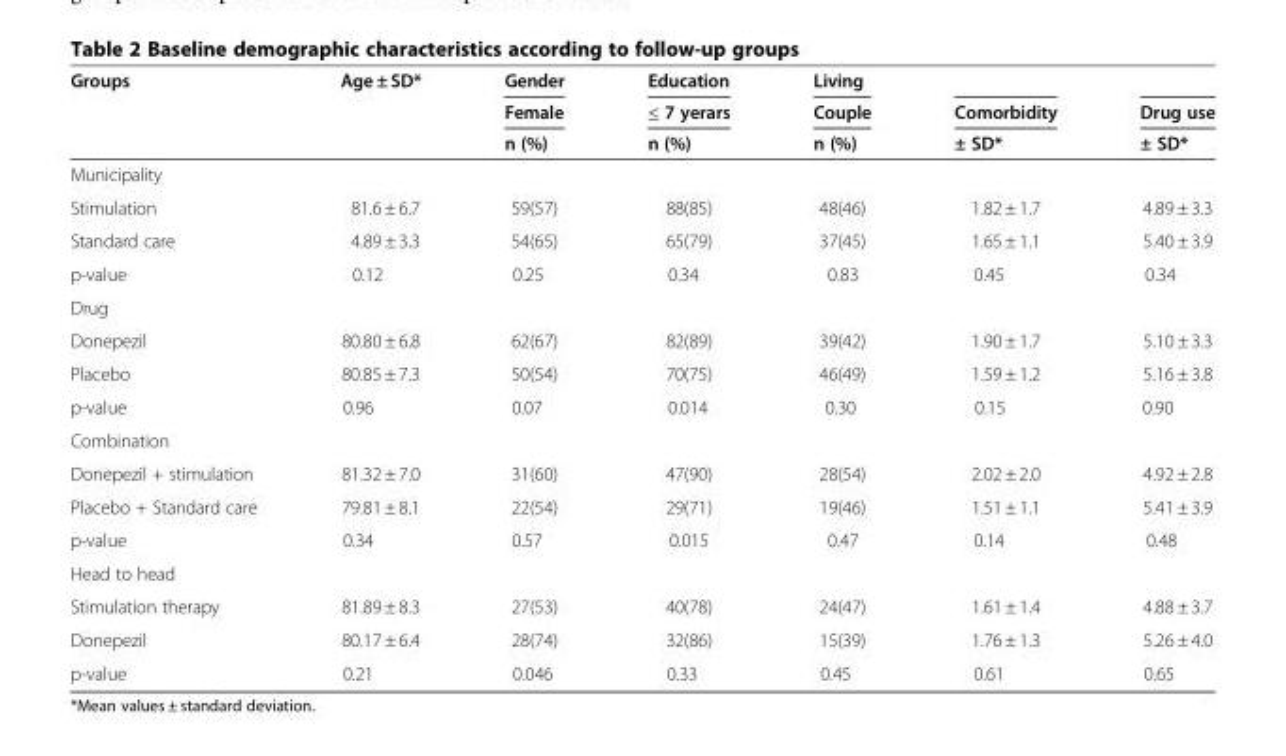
<table><thead><tr><td rowspan="3">Groups</td><td rowspan="3">Age ± SD*</td><td rowspan="3">Gender Female n (%)</td><td rowspan="3">Education ≤ 7 yerars n (%)</td><td rowspan="3">Living Couple n (%)</td><td rowspan="3">Comorbidity ± SD*</td><td rowspan="3">Drug use ± SD*</td></tr><tr></tr><tr></tr></thead><tbody><tr><td colspan="7">Municipality</td></tr><tr><td>Stimulation</td><td>81.6 ± 6.7</td><td>59(57)</td><td>88(85)</td><td>48(46)</td><td>1.82 ± 1.7</td><td>4.89 ± 3.3</td></tr><tr><td>Standard care</td><td>4.89 ± 3.3</td><td>54(65)</td><td>65(79)</td><td>37(45)</td><td>1.65 ± 1.1</td><td>5.40 ± 3.9</td></tr><tr><td>p-value</td><td>0.12</td><td>0.25</td><td>0.34</td><td>0.83</td><td>0.45</td><td>0.34</td></tr><tr><td colspan="7">Drug</td></tr><tr><td>Donepezil</td><td>80.80 ± 6.8</td><td>62(67)</td><td>82(89)</td><td>39(42)</td><td>1.90 ± 1.7</td><td>5.10 ± 3.3</td></tr><tr><td>Placebo</td><td>80.85 ± 7.3</td><td>50(54)</td><td>70(75)</td><td>46(49)</td><td>1.59 ± 1.2</td><td>5.16 ± 3.8</td></tr><tr><td>p-value</td><td>0.96</td><td>0.07</td><td>0.014</td><td>0.30</td><td>0.15</td><td>0.90</td></tr><tr><td colspan="7">Combination</td></tr><tr><td>Donepezil + stimulation</td><td>81.32 ± 7.0</td><td>31(60)</td><td>47(90)</td><td>28(54)</td><td>2.02 ± 2.0</td><td>4.92 ± 2.8</td></tr><tr><td>Placebo + Standard care</td><td>79.81 ± 8.1</td><td>22(54)</td><td>29(71)</td><td>19(46)</td><td>1.51 ± 1.1</td><td>5.41 ± 3.9</td></tr><tr><td>p-value</td><td>0.34</td><td>0.57</td><td>0.015</td><td>0.47</td><td>0.14</td><td>0.48</td></tr><tr><td colspan="7">Head to head</td></tr><tr><td>Stimulation therapy</td><td>81.89 ± 8.3</td><td>27(53)</td><td>40(78)</td><td>24(47)</td><td>1.61 ± 1.4</td><td>4.88 ± 3.7</td></tr><tr><td>Donepezil</td><td>80.17 ± 6.4</td><td>28(74)</td><td>32(86)</td><td>15(39)</td><td>1.76 ± 1.3</td><td>5.26 ± 4.0</td></tr><tr><td>p-value</td><td>0.21</td><td>0.046</td><td>0.33</td><td>0.45</td><td>0.61</td><td>0.65</td></tr></tbody></table>